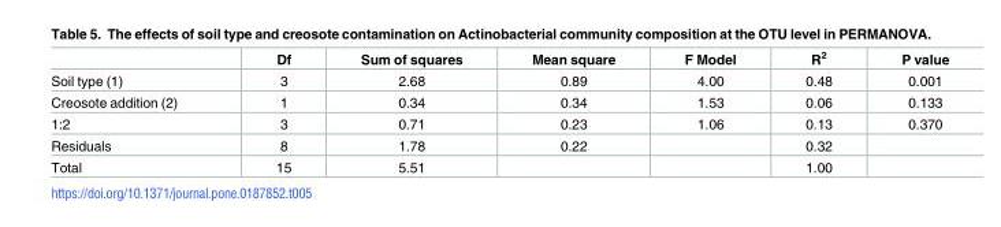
<table><thead><tr><td></td><td>Df</td><td>Sum of squares</td><td>Mean square</td><td>F Model</td><td>R<sup>2</sup></td><td>P value</td></tr></thead><tbody><tr><td>Soil type (1)</td><td>3</td><td>2.68</td><td>0.89</td><td>4.00</td><td>0.48</td><td>0.001</td></tr><tr><td>Creosote addition (2)</td><td>1</td><td>0.34</td><td>0.34</td><td>1.53</td><td>0.06</td><td>0.133</td></tr><tr><td>1:2</td><td>3</td><td>0.71</td><td>0.23</td><td>1.06</td><td>0.13</td><td>0.370</td></tr><tr><td>Residuals</td><td>8</td><td>1.78</td><td>0.22</td><td></td><td>0.32</td><td></td></tr><tr><td>Total</td><td>15</td><td>5.51</td><td></td><td></td><td>1.00</td><td></td></tr></tbody></table>